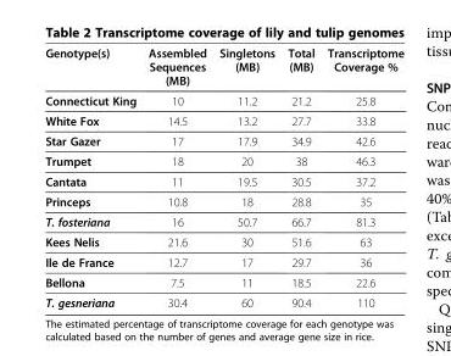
<table><thead><tr><td>Genotype(s)</td><td>Assembled Sequences (MB)</td><td>Singletons (MB)</td><td>Total (MB)</td><td>Transcriptome Coverage %</td></tr></thead><tbody><tr><td>Connecticut King</td><td>10</td><td>11.2</td><td>21.2</td><td>25.8</td></tr><tr><td>White Fox</td><td>14.5</td><td>13.2</td><td>27.7</td><td>33.8</td></tr><tr><td>Star Gazer</td><td>17</td><td>17.9</td><td>34.9</td><td>42.6</td></tr><tr><td>Trumpet</td><td>18</td><td>20</td><td>38</td><td>46.3</td></tr><tr><td>Cantata</td><td>11</td><td>19.5</td><td>30.5</td><td>37.2</td></tr><tr><td>Princeps</td><td>10.8</td><td>18</td><td>28.8</td><td>35</td></tr><tr><td>T. fosteriana</td><td>16</td><td>50.7</td><td>66.7</td><td>81.3</td></tr><tr><td>Kees Nelis</td><td>21.6</td><td>30</td><td>51.6</td><td>63</td></tr><tr><td>Ile de France</td><td>12.7</td><td>17</td><td>29.7</td><td>36</td></tr><tr><td>Bellona</td><td>7.5</td><td>11</td><td>18.5</td><td>22.6</td></tr><tr><td>T. gesneriana</td><td>30.4</td><td>60</td><td>90.4</td><td>110</td></tr></tbody></table>